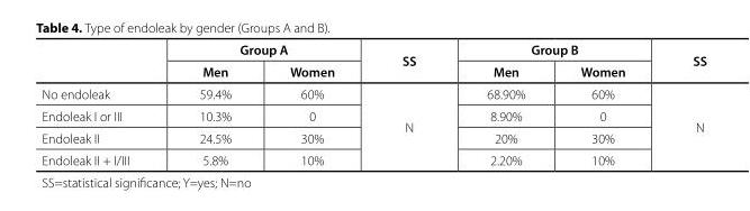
<table><thead><tr><td rowspan="2"></td><td colspan="2">Group A</td><td rowspan="2">SS</td><td colspan="2">Group B</td><td rowspan="2">SS</td></tr><tr><td>Men</td><td>Women</td><td>Men</td><td>Women</td></tr></thead><tbody><tr><td>No endoleak</td><td>59.4%</td><td>60%</td><td rowspan="4">N</td><td>68.90%</td><td>60%</td><td rowspan="4">N</td></tr><tr><td>Endoleak I or III</td><td>10.3%</td><td>0</td><td>8.90%</td><td>0</td></tr><tr><td>Endoleak II</td><td>24.5%</td><td>30%</td><td>20%</td><td>30%</td></tr><tr><td>Endoleak II + I/III</td><td>5.8%</td><td>10%</td><td>2.20%</td><td>10%</td></tr></tbody></table>